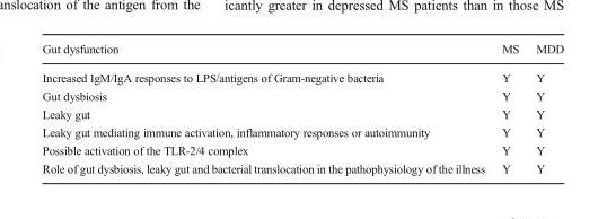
<table><thead><tr><td>Gut dysfunction</td><td>MS</td><td>MDD</td></tr></thead><tbody><tr><td>Increased IgM/IgA responses to LPS/antigens of Gram-negative bacteria</td><td>Y</td><td>Y</td></tr><tr><td>Gut dysbiosis</td><td>Y</td><td>Y</td></tr><tr><td>Leaky gut</td><td>Y</td><td>Y</td></tr><tr><td>Leaky gut mediating immune activation, inflammatory responses or autoimmunity</td><td>Y</td><td>Y</td></tr><tr><td>Possible activation of the TLR-2/4 complex</td><td>Y</td><td>Y</td></tr><tr><td>Role of gut dysbiosis, leaky gut and bacterial translocation in the pathophysiology of the illness</td><td>Y</td><td>Y</td></tr></tbody></table>